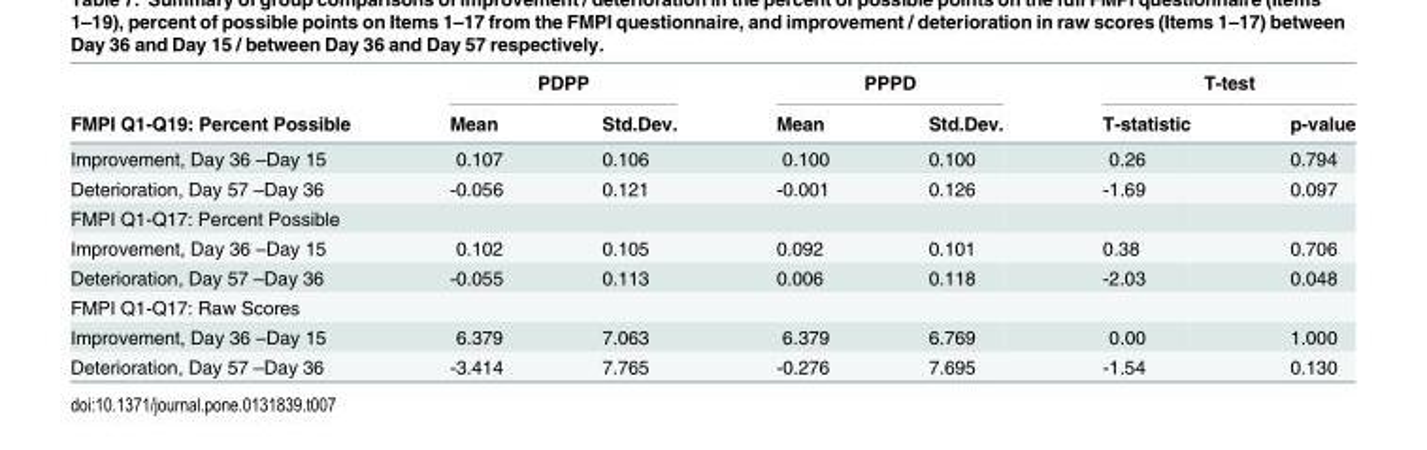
<table><thead><tr><td rowspan="2">FMPI Q1-Q19: Percent Possible</td><td colspan="2">PDPP</td><td colspan="2">PPPD</td><td colspan="2">T-test</td></tr><tr><td>Mean</td><td>Std.Dev.</td><td>Mean</td><td>Std.Dev.</td><td>T-statistic</td><td>p-value</td></tr></thead><tbody><tr><td>Improvement, Day 36 –Day 15</td><td>0.107</td><td>0.106</td><td>0.100</td><td>0.100</td><td>0.26</td><td>0.794</td></tr><tr><td>Deterioration, Day 57 –Day 36</td><td>-0.056</td><td>0.121</td><td>-0.001</td><td>0.126</td><td>-1.69</td><td>0.097</td></tr><tr><td colspan="7">FMPI Q1-Q17: Percent Possible</td></tr><tr><td>Improvement, Day 36 –Day 15</td><td>0.102</td><td>0.105</td><td>0.092</td><td>0.101</td><td>0.38</td><td>0.706</td></tr><tr><td>Deterioration, Day 57 –Day 36</td><td>-0.055</td><td>0.113</td><td>0.006</td><td>0.118</td><td>-2.03</td><td>0.048</td></tr><tr><td colspan="7">FMPI Q1-Q17: Raw Scores</td></tr><tr><td>Improvement, Day 36 –Day 15</td><td>6.379</td><td>7.063</td><td>6.379</td><td>6.769</td><td>0.00</td><td>1.000</td></tr><tr><td>Deterioration, Day 57 –Day 36</td><td>-3.414</td><td>7.765</td><td>-0.276</td><td>7.695</td><td>-1.54</td><td>0.130</td></tr></tbody></table>